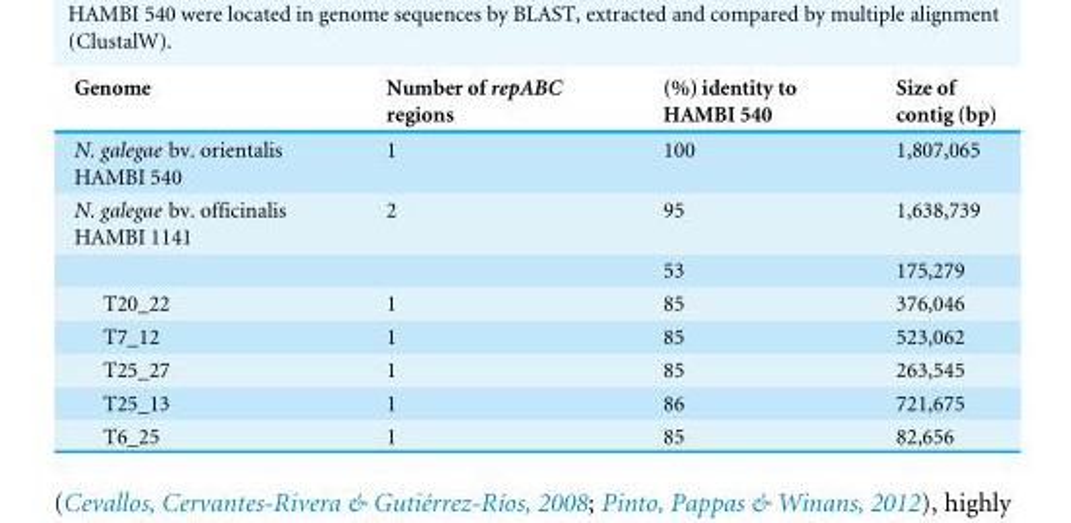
<table><thead><tr><td>Genome</td><td>Number of repABC regions</td><td>(%) identity to HAMBI 540</td><td>Size of contig (bp)</td></tr></thead><tbody><tr><td>N. galegae bv. orientalis HAMBI 540</td><td>1</td><td>100</td><td>1,807,065</td></tr><tr><td rowspan="2">N. galegae bv. officinalis HAMBI 1141</td><td>2</td><td>95</td><td>1,638,739</td></tr><tr><td></td><td>53</td><td>175,279</td></tr><tr><td>T20_22</td><td>1</td><td>85</td><td>376,046</td></tr><tr><td>T7_12</td><td>1</td><td>85</td><td>523,062</td></tr><tr><td>T25_27</td><td>1</td><td>85</td><td>263,545</td></tr><tr><td>T25_13</td><td>1</td><td>86</td><td>721,675</td></tr><tr><td>T6_25</td><td>1</td><td>85</td><td>82,656</td></tr></tbody></table>